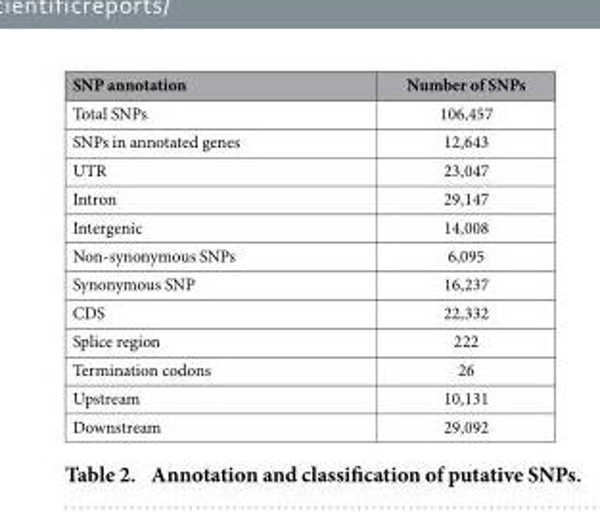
<table><thead><tr><td>SNP annotation</td><td>Number of SNPs</td></tr></thead><tbody><tr><td>Total SNPs</td><td>106,457</td></tr><tr><td>SNPs in annotated genes</td><td>12,643</td></tr><tr><td>UTR</td><td>23,047</td></tr><tr><td>Intron</td><td>29,147</td></tr><tr><td>Intergenic</td><td>14,008</td></tr><tr><td>Non-synonymous SNPs</td><td>6,095</td></tr><tr><td>Synonymous SNP</td><td>16,237</td></tr><tr><td>CDS</td><td>22,332</td></tr><tr><td>Splice region</td><td>222</td></tr><tr><td>Termination codons</td><td>26</td></tr><tr><td>Upstream</td><td>10,131</td></tr><tr><td>Downstream</td><td>29,092</td></tr></tbody></table>